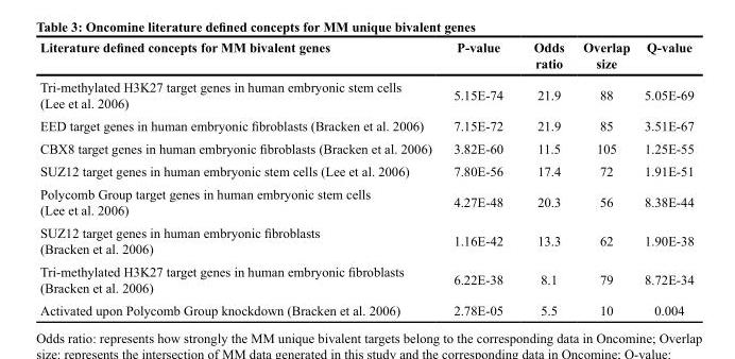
<table><thead><tr><td>Literature defined concepts for MM bivalent genes</td><td>P-value</td><td>Odds ratio</td><td>Overlap size</td><td>Q-value</td></tr></thead><tbody><tr><td>Tri-methylated H3K27 target genes in human embryonic stem cells (Lee et al. 2006)</td><td>5.15E-74</td><td>21.9</td><td>88</td><td>5.05E-69</td></tr><tr><td>EED target genes in human embryonic fibroblasts (Bracken et al. 2006)</td><td>7.15E-72</td><td>21.9</td><td>85</td><td>3.51E-67</td></tr><tr><td>CBX8 target genes in human embryonic fibroblasts (Bracken et al. 2006)</td><td>3.82E-60</td><td>11.5</td><td>105</td><td>1.25E-55</td></tr><tr><td>SUZ12 target genes in human embryonic stem cells (Lee et al. 2006)</td><td>7.80E-56</td><td>17.4</td><td>72</td><td>1.91E-51</td></tr><tr><td>Polycomb Group target genes in human embryonic stem cells (Lee et al. 2006)</td><td>4.27E-48</td><td>20.3</td><td>56</td><td>8.38E-44</td></tr><tr><td>SUZ12 target genes in human embryonic fibroblasts (Bracken et al. 2006)</td><td>1.16E-42</td><td>13.3</td><td>62</td><td>1.90E-38</td></tr><tr><td>Tri-methylated H3K27 target genes in human embryonic fibroblasts (Bracken et al. 2006)</td><td>6.22E-38</td><td>8.1</td><td>79</td><td>8.72E-34</td></tr><tr><td>Activated upon Polycomb Group knockdown (Bracken et al. 2006)</td><td>2.78E-05</td><td>5.5</td><td>10</td><td>0.004</td></tr></tbody></table>